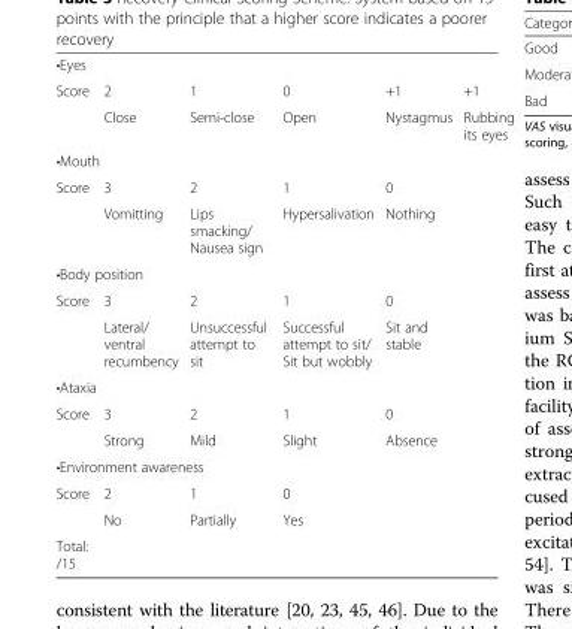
<table><tbody><tr><td colspan="6">•Eyes</td></tr><tr><td rowspan="2">Score</td><td>2</td><td>1</td><td>0</td><td>+1</td><td>+1</td></tr><tr><td>Close</td><td>Semi-close</td><td>Open</td><td>Nystagmus</td><td>Rubbing its eyes</td></tr><tr><td colspan="6">•Mouth</td></tr><tr><td rowspan="2">Score</td><td>3</td><td>2</td><td>1</td><td>0</td><td></td></tr><tr><td>Vomitting</td><td>Lips smacking/ Nausea sign</td><td>Hypersalivation</td><td>Nothing</td><td></td></tr><tr><td colspan="6">•Body position</td></tr><tr><td rowspan="2">Score</td><td>3</td><td>2</td><td>1</td><td>0</td><td></td></tr><tr><td>Lateral/ ventral recumbency</td><td>Unsuccessful attempt to sit</td><td>Successful attempt to sit/ Sit but wobbly</td><td>Sit and stable</td><td></td></tr><tr><td colspan="6">•Ataxia</td></tr><tr><td rowspan="2">Score</td><td>3</td><td>2</td><td>1</td><td>0</td><td></td></tr><tr><td>Strong</td><td>Mild</td><td>Slight</td><td>Absence</td><td></td></tr><tr><td colspan="6">•Environment awareness</td></tr><tr><td rowspan="2">Score</td><td>2</td><td>1</td><td>0</td><td></td><td></td></tr><tr><td>No</td><td>Partially</td><td>Yes</td><td></td><td></td></tr><tr><td>Total: /15</td><td></td><td></td><td></td><td></td><td></td></tr></tbody></table>